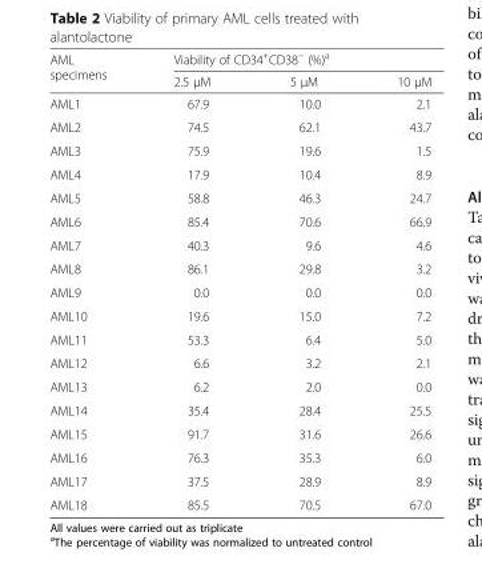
<table><thead><tr><td rowspan="2">AML specimens</td><td colspan="3">Viability of CD34<sup>+</sup>CD38<sup>−</sup> (%)<sup>a</sup></td></tr><tr><td>2.5 μM</td><td>5 μM</td><td>10 μM</td></tr></thead><tbody><tr><td>AML1</td><td>67.9</td><td>10.0</td><td>2.1</td></tr><tr><td>AML2</td><td>74.5</td><td>62.1</td><td>43.7</td></tr><tr><td>AML3</td><td>75.9</td><td>19.6</td><td>1.5</td></tr><tr><td>AML4</td><td>17.9</td><td>10.4</td><td>8.9</td></tr><tr><td>AML5</td><td>58.8</td><td>46.3</td><td>24.7</td></tr><tr><td>AML6</td><td>85.4</td><td>70.6</td><td>66.9</td></tr><tr><td>AML7</td><td>40.3</td><td>9.6</td><td>4.6</td></tr><tr><td>AML8</td><td>86.1</td><td>29.8</td><td>3.2</td></tr><tr><td>AML9</td><td>0.0</td><td>0.0</td><td>0.0</td></tr><tr><td>AML10</td><td>19.6</td><td>15.0</td><td>7.2</td></tr><tr><td>AML11</td><td>53.3</td><td>6.4</td><td>5.0</td></tr><tr><td>AML12</td><td>6.6</td><td>3.2</td><td>2.1</td></tr><tr><td>AML13</td><td>6.2</td><td>2.0</td><td>0.0</td></tr><tr><td>AML14</td><td>35.4</td><td>28.4</td><td>25.5</td></tr><tr><td>AML15</td><td>91.7</td><td>31.6</td><td>26.6</td></tr><tr><td>AML16</td><td>76.3</td><td>35.3</td><td>6.0</td></tr><tr><td>AML17</td><td>37.5</td><td>28.9</td><td>8.9</td></tr><tr><td>AML18</td><td>85.5</td><td>70.5</td><td>67.0</td></tr></tbody></table>